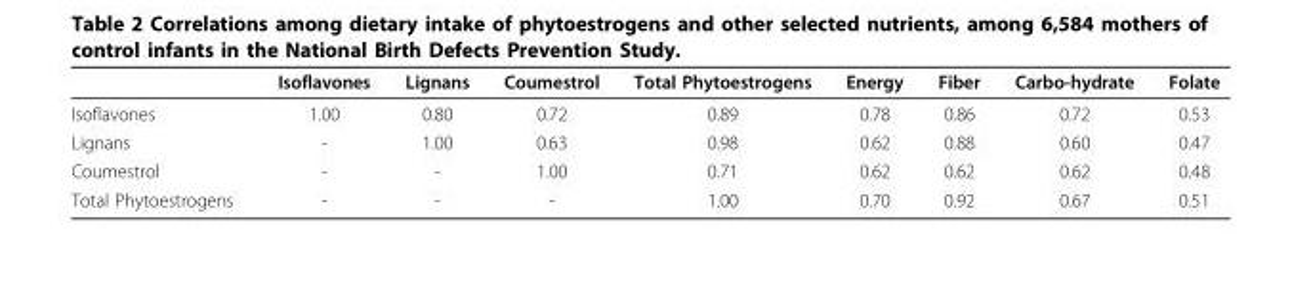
<table><thead><tr><td></td><td>Isoflavones</td><td>Lignans</td><td>Coumestrol</td><td>Total Phytoestrogens</td><td>Energy</td><td>Fiber</td><td>Carbo-hydrate</td><td>Folate</td></tr></thead><tbody><tr><td>Isoflavones</td><td>1.00</td><td>0.80</td><td>0.72</td><td>0.89</td><td>0.78</td><td>0.86</td><td>0.72</td><td>0.53</td></tr><tr><td>Lignans</td><td>-</td><td>1.00</td><td>0.63</td><td>0.98</td><td>0.62</td><td>0.88</td><td>0.60</td><td>0.47</td></tr><tr><td>Coumestrol</td><td>-</td><td>-</td><td>1.00</td><td>0.71</td><td>0.62</td><td>0.62</td><td>0.62</td><td>0.48</td></tr><tr><td>Total Phytoestrogens</td><td>-</td><td>-</td><td>-</td><td>1.00</td><td>0.70</td><td>0.92</td><td>0.67</td><td>0.51</td></tr></tbody></table>